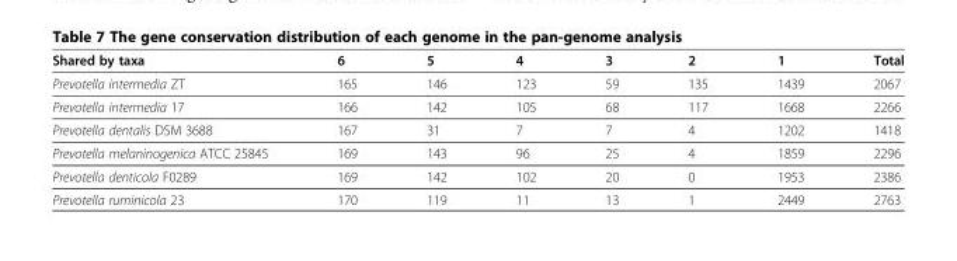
<table><thead><tr><td>Shared by taxa</td><td>6</td><td>5</td><td>4</td><td>3</td><td>2</td><td>1</td><td>Total</td></tr></thead><tbody><tr><td>Prevotella intermedia ZT</td><td>165</td><td>146</td><td>123</td><td>59</td><td>135</td><td>1439</td><td>2067</td></tr><tr><td>Prevotella intermedia 17</td><td>166</td><td>142</td><td>105</td><td>68</td><td>117</td><td>1668</td><td>2266</td></tr><tr><td>Prevotella dentalis DSM 3688</td><td>167</td><td>31</td><td>7</td><td>7</td><td>4</td><td>1202</td><td>1418</td></tr><tr><td>Prevotella melaninogenica ATCC 25845</td><td>169</td><td>143</td><td>96</td><td>25</td><td>4</td><td>1859</td><td>2296</td></tr><tr><td>Prevotella denticola F0289</td><td>169</td><td>142</td><td>102</td><td>20</td><td>0</td><td>1953</td><td>2386</td></tr><tr><td>Prevotella ruminicola 23</td><td>170</td><td>119</td><td>11</td><td>13</td><td>1</td><td>2449</td><td>2763</td></tr></tbody></table>